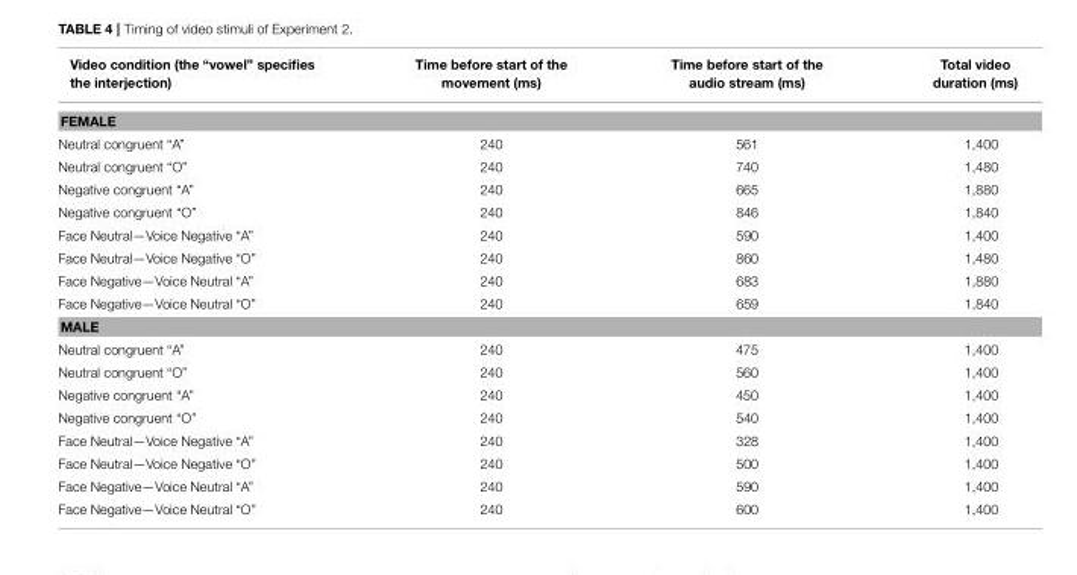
<table><thead><tr><td>Video condition (the “vowel” specifies the interjection)</td><td>Time before start of the movement (ms)</td><td>Time before start of the audio stream (ms)</td><td>Total video duration (ms)</td></tr></thead><tbody><tr><td colspan="4">FEMALE</td></tr><tr><td>Neutral congruent “A”</td><td>240</td><td>561</td><td>1,400</td></tr><tr><td>Neutral congruent “O”</td><td>240</td><td>740</td><td>1,480</td></tr><tr><td>Negative congruent “A”</td><td>240</td><td>665</td><td>1,880</td></tr><tr><td>Negative congruent “O”</td><td>240</td><td>846</td><td>1,840</td></tr><tr><td>Face Neutral—Voice Negative “A”</td><td>240</td><td>590</td><td>1,400</td></tr><tr><td>Face Neutral—Voice Negative “O”</td><td>240</td><td>860</td><td>1,480</td></tr><tr><td>Face Negative—Voice Neutral “A”</td><td>240</td><td>683</td><td>1,880</td></tr><tr><td>Face Negative—Voice Neutral “O”</td><td>240</td><td>659</td><td>1,840</td></tr><tr><td colspan="4">MALE</td></tr><tr><td>Neutral congruent “A”</td><td>240</td><td>475</td><td>1,400</td></tr><tr><td>Neutral congruent “O”</td><td>240</td><td>560</td><td>1,400</td></tr><tr><td>Negative congruent “A”</td><td>240</td><td>450</td><td>1,400</td></tr><tr><td>Negative congruent “O”</td><td>240</td><td>540</td><td>1,400</td></tr><tr><td>Face Neutral—Voice Negative “A”</td><td>240</td><td>328</td><td>1,400</td></tr><tr><td>Face Neutral—Voice Negative “O”</td><td>240</td><td>500</td><td>1,400</td></tr><tr><td>Face Negative—Voice Neutral “A”</td><td>240</td><td>590</td><td>1,400</td></tr><tr><td>Face Negative—Voice Neutral “O”</td><td>240</td><td>600</td><td>1,400</td></tr></tbody></table>